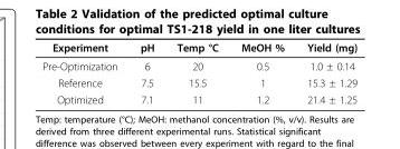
<table><thead><tr><td>Experiment</td><td>pH</td><td>Temp °C</td><td>MeOH %</td><td>Yield (mg)</td></tr></thead><tbody><tr><td>Pre-Optimization</td><td>6</td><td>20</td><td>0.5</td><td>1.0 ± 0.14</td></tr><tr><td>Reference</td><td>7.5</td><td>15.5</td><td>1</td><td>15.3 ± 1.29</td></tr><tr><td>Optimized</td><td>7.1</td><td>11</td><td>1.2</td><td>21.4 ± 1.25</td></tr></tbody></table>